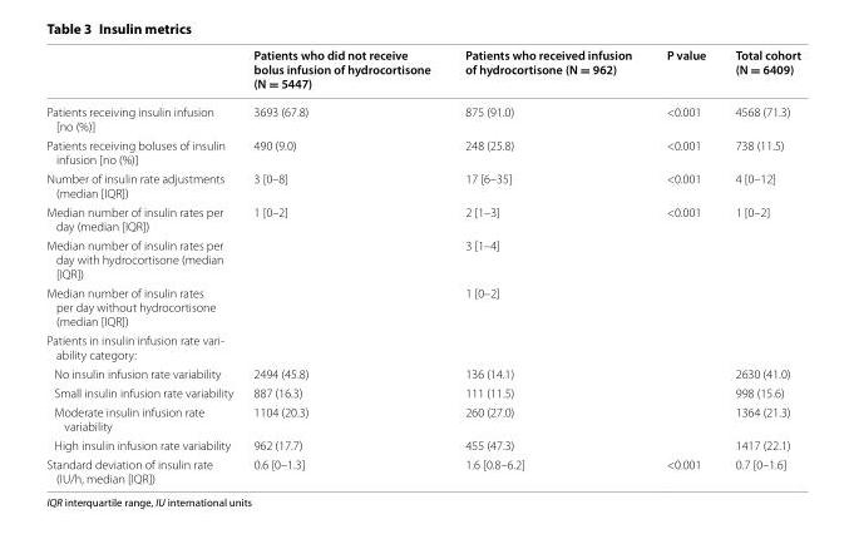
<table><thead><tr><td></td><td>Patients who did not receive bolus infusion of hydrocortisone (N = 5447)</td><td>Patients who received infusion of hydrocortisone (N = 962)</td><td>P value</td><td>Total cohort (N = 6409)</td></tr></thead><tbody><tr><td>Patients receiving insulin infusion [no (%)]</td><td>3693 (67.8)</td><td>875 (91.0)</td><td>&lt;0.001</td><td>4568 (71.3)</td></tr><tr><td>Patients receiving boluses of insulin infusion [no (%)]</td><td>490 (9.0)</td><td>248 (25.8)</td><td>&lt;0.001</td><td>738 (11.5)</td></tr><tr><td>Number of insulin rate adjustments (median [IQR])</td><td>3 [0–8]</td><td>17 [6–35]</td><td>&lt;0.001</td><td>4 [0–12]</td></tr><tr><td>Median number of insulin rates per day (median [IQR])</td><td>1 [0–2]</td><td>2 [1–3]</td><td>&lt;0.001</td><td>1 [0–2]</td></tr><tr><td>Median number of insulin rates per day with hydrocortisone (median [IQR])</td><td></td><td>3 [1–4]</td><td></td><td></td></tr><tr><td>Median number of insulin rates per day without hydrocortisone (median [IQR])</td><td></td><td>1 [0–2]</td><td></td><td></td></tr><tr><td colspan="5">Patients in insulin infusion rate vari‑ ability category:</td></tr><tr><td>No insulin infusion rate variability</td><td>2494 (45.8)</td><td>136 (14.1)</td><td></td><td>2630 (41.0)</td></tr><tr><td>Small insulin infusion rate variability</td><td>887 (16.3)</td><td>111 (11.5)</td><td></td><td>998 (15.6)</td></tr><tr><td>Moderate insulin infusion rate variability</td><td>1104 (20.3)</td><td>260 (27.0)</td><td></td><td>1364 (21.3)</td></tr><tr><td>High insulin infusion rate variability</td><td>962 (17.7)</td><td>455 (47.3)</td><td></td><td>1417 (22.1)</td></tr><tr><td>Standard deviation of insulin rate (IU/h, median [IQR])</td><td>0.6 [0–1.3]</td><td>1.6 [0.8–6.2]</td><td>&lt;0.001</td><td>0.7 [0–1.6]</td></tr></tbody></table>